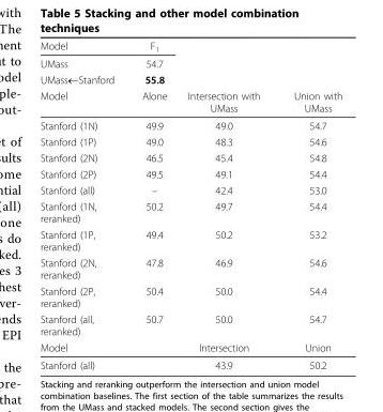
<table><thead><tr><td rowspan="4">Model UMass UMass¬Stanford Model</td><td rowspan="4">F1 54.7 55.8 Alone</td><td rowspan="4">Intersection with UMass</td><td rowspan="4">Union with UMass</td></tr><tr></tr><tr></tr><tr></tr></thead><tbody><tr><td>Stanford (1N)</td><td>49.9</td><td>49.0</td><td>54.7</td></tr><tr><td>Stanford (1P)</td><td>49.0</td><td>48.3</td><td>54.6</td></tr><tr><td>Stanford (2N)</td><td>46.5</td><td>45.4</td><td>54.8</td></tr><tr><td>Stanford (2P)</td><td>49.5</td><td>49.1</td><td>54.4</td></tr><tr><td>Stanford (all)</td><td>–</td><td>42.4</td><td>53.0</td></tr><tr><td>Stanford (1N, reranked)</td><td>50.2</td><td>49.7</td><td>54.4</td></tr><tr><td>Stanford (1P, reranked)</td><td>49.4</td><td>50.2</td><td>53.2</td></tr><tr><td>Stanford (2N, reranked)</td><td>47.8</td><td>46.9</td><td>54.6</td></tr><tr><td>Stanford (2P, reranked)</td><td>50.4</td><td>50.0</td><td>54.4</td></tr><tr><td>Stanford (all, reranked)</td><td>50.7</td><td>50.0</td><td>54.7</td></tr><tr><td>Model</td><td></td><td>Intersection</td><td>Union</td></tr><tr><td>Stanford (all)</td><td></td><td>43.9</td><td>50.2</td></tr></tbody></table>